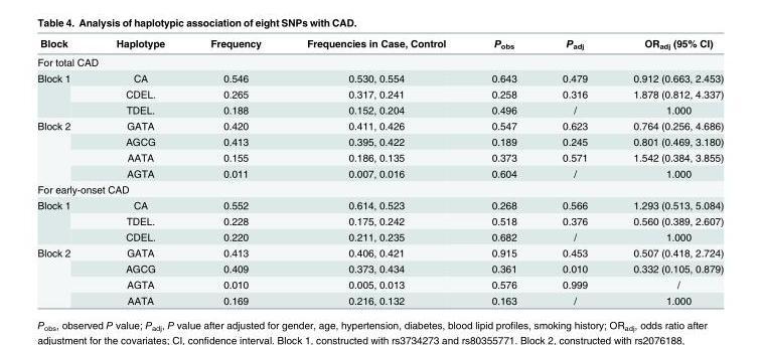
<table><thead><tr><td>Block</td><td>Haplotype</td><td>Frequency</td><td>Frequencies in Case, Control</td><td>P<sub>obs</sub></td><td>P<sub>adj</sub></td><td>OR<sub>adj</sub> (95% CI)</td></tr></thead><tbody><tr><td colspan="7">For total CAD</td></tr><tr><td rowspan="3">Block 1</td><td>CA</td><td>0.546</td><td>0.530, 0.554</td><td>0.643</td><td>0.479</td><td>0.912 (0.663, 2.453)</td></tr><tr><td>CDEL.</td><td>0.265</td><td>0.317, 0.241</td><td>0.258</td><td>0.316</td><td>1.878 (0.812, 4.337)</td></tr><tr><td>TDEL.</td><td>0.188</td><td>0.152, 0.204</td><td>0.496</td><td>/</td><td>1.000</td></tr><tr><td rowspan="4">Block 2</td><td>GATA</td><td>0.420</td><td>0.411, 0.426</td><td>0.547</td><td>0.623</td><td>0.764 (0.256, 4.686)</td></tr><tr><td>AGCG</td><td>0.413</td><td>0.395, 0.422</td><td>0.189</td><td>0.245</td><td>0.801 (0.469, 3.180)</td></tr><tr><td>AATA</td><td>0.155</td><td>0.186, 0.135</td><td>0.373</td><td>0.571</td><td>1.542 (0.384, 3.855)</td></tr><tr><td>AGTA</td><td>0.011</td><td>0.007, 0.016</td><td>0.604</td><td>/</td><td>1.000</td></tr><tr><td colspan="7">For early-onset CAD</td></tr><tr><td rowspan="3">Block 1</td><td>CA</td><td>0.552</td><td>0.614, 0.523</td><td>0.268</td><td>0.566</td><td>1.293 (0.513, 5.084)</td></tr><tr><td>TDEL.</td><td>0.228</td><td>0.175, 0.242</td><td>0.518</td><td>0.376</td><td>0.560 (0.389, 2.607)</td></tr><tr><td>CDEL.</td><td>0.220</td><td>0.211, 0.235</td><td>0.682</td><td>/</td><td>1.000</td></tr><tr><td rowspan="4">Block 2</td><td>GATA</td><td>0.413</td><td>0.406, 0.421</td><td>0.915</td><td>0.453</td><td>0.507 (0.418, 2.724)</td></tr><tr><td>AGCG</td><td>0.409</td><td>0.373, 0.434</td><td>0.361</td><td>0.010</td><td>0.332 (0.105, 0.879)</td></tr><tr><td>AGTA</td><td>0.010</td><td>0.005, 0.013</td><td>0.576</td><td>0.999</td><td>/</td></tr><tr><td>AATA</td><td>0.169</td><td>0.216, 0.132</td><td>0.163</td><td>/</td><td>1.000</td></tr></tbody></table>